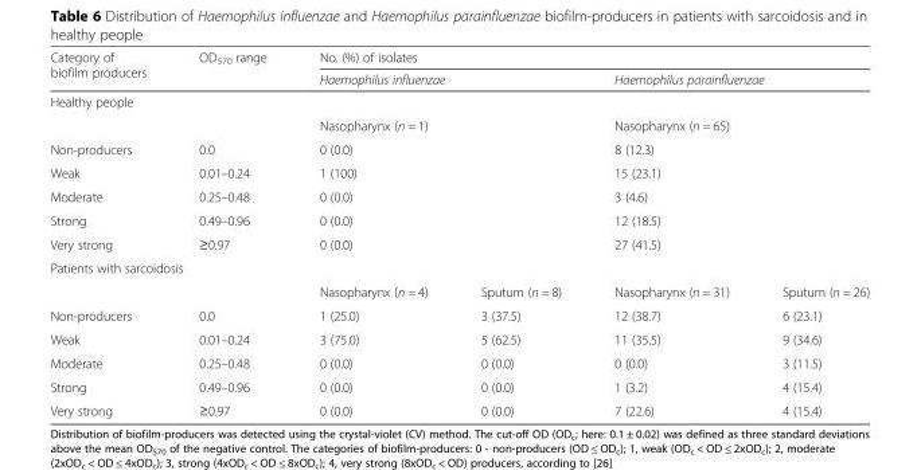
<table><thead><tr><td rowspan="2">Category of biofilm producers</td><td rowspan="2">OD<sub>570</sub> range</td><td colspan="4">No. (%) of isolates</td></tr><tr><td colspan="2">Haemophilus influenzae</td><td colspan="2">Haemophilus parainfluenzae</td></tr><tr><td colspan="6">Healthy people</td></tr><tr><td></td><td></td><td>Nasopharynx (n = 1)</td><td></td><td>Nasopharynx (n = 65)</td><td></td></tr></thead><tbody><tr><td>Non-producers</td><td>0.0</td><td>0 (0.0)</td><td></td><td>8 (12.3)</td><td></td></tr><tr><td>Weak</td><td>0.01–0.24</td><td>1 (100)</td><td></td><td>15 (23.1)</td><td></td></tr><tr><td>Moderate</td><td>0.25–0.48</td><td>0 (0.0)</td><td></td><td>3 (4.6)</td><td></td></tr><tr><td>Strong</td><td>0.49–0.96</td><td>0 (0.0)</td><td></td><td>12 (18.5)</td><td></td></tr><tr><td>Very strong</td><td>≥0.97</td><td>0 (0.0)</td><td></td><td>27 (41.5)</td><td></td></tr><tr><td colspan="6">Patients with sarcoidosis</td></tr><tr><td></td><td></td><td>Nasopharynx (n = 4)</td><td>Sputum (n = 8)</td><td>Nasopharynx (n = 31)</td><td>Sputum (n = 26)</td></tr><tr><td>Non-producers</td><td>0.0</td><td>1 (25.0)</td><td>3 (37.5)</td><td>12 (38.7)</td><td>6 (23.1)</td></tr><tr><td>Weak</td><td>0.01–0.24</td><td>3 (75.0)</td><td>5 (62.5)</td><td>11 (35.5)</td><td>9 (34.6)</td></tr><tr><td>Moderate</td><td>0.25–0.48</td><td>0 (0.0)</td><td>0 (0.0)</td><td>0 (0.0)</td><td>3 (11.5)</td></tr><tr><td>Strong</td><td>0.49–0.96</td><td>0 (0.0)</td><td>0 (0.0)</td><td>1 (3.2)</td><td>4 (15.4)</td></tr><tr><td>Very strong</td><td>≥0.97</td><td>0 (0.0)</td><td>0 (0.0)</td><td>7 (22.6)</td><td>4 (15.4)</td></tr></tbody></table>